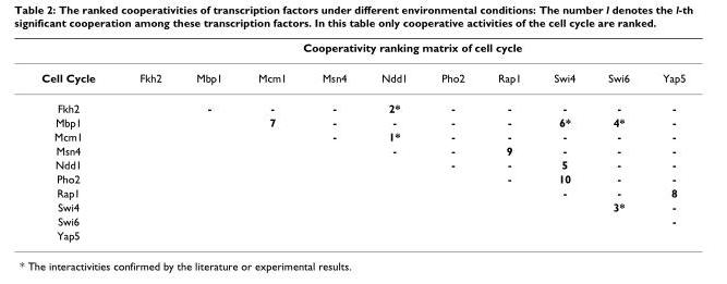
<table><thead><tr><td rowspan="2">Cell Cycle</td><td colspan="10">Cooperativity ranking matrix of cell cycle</td></tr><tr><td>Fkh2</td><td>Mbp1</td><td>Mcm1</td><td>Msn4</td><td>Ndd1</td><td>Pho2</td><td>Rap1</td><td>Swi4</td><td>Swi6</td><td>Yap5</td></tr></thead><tbody><tr><td>Fkh2</td><td></td><td>-</td><td>-</td><td>-</td><td>2*</td><td>-</td><td>-</td><td>-</td><td>-</td><td>-</td></tr><tr><td>Mbp1</td><td></td><td></td><td>7</td><td>-</td><td>-</td><td>-</td><td>-</td><td>6*</td><td>4*</td><td>-</td></tr><tr><td>Mcm1</td><td></td><td></td><td></td><td>-</td><td>1*</td><td>-</td><td>-</td><td>-</td><td>-</td><td>-</td></tr><tr><td>Msn4</td><td></td><td></td><td></td><td></td><td>-</td><td>-</td><td>9</td><td>-</td><td>-</td><td>-</td></tr><tr><td>Ndd1</td><td></td><td></td><td></td><td></td><td></td><td>-</td><td>-</td><td>5</td><td>-</td><td>-</td></tr><tr><td>Pho2</td><td></td><td></td><td></td><td></td><td></td><td></td><td>-</td><td>10</td><td>-</td><td>-</td></tr><tr><td>Rap1</td><td></td><td></td><td></td><td></td><td></td><td></td><td></td><td>-</td><td>-</td><td>8</td></tr><tr><td>Swi4</td><td></td><td></td><td></td><td></td><td></td><td></td><td></td><td></td><td>3*</td><td>-</td></tr><tr><td>Swi6</td><td></td><td></td><td></td><td></td><td></td><td></td><td></td><td></td><td></td><td>-</td></tr><tr><td>Yap5</td><td></td><td></td><td></td><td></td><td></td><td></td><td></td><td></td><td></td><td></td></tr></tbody></table>